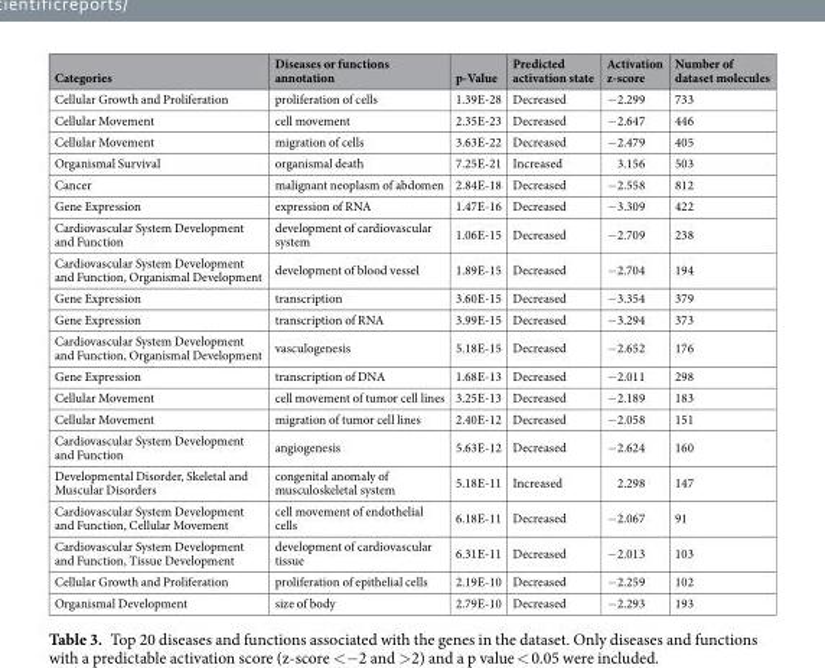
<table><thead><tr><td>Categories</td><td>Diseases or functions annotation</td><td>p-Value</td><td>Predicted activation state</td><td>Activation z-score</td><td>Number of dataset molecules</td></tr></thead><tbody><tr><td>Cellular Growth and Proliferation</td><td>proliferation of cells</td><td>1.39E-28</td><td>Decreased</td><td>−2.299</td><td>733</td></tr><tr><td>Cellular Movement</td><td>cell movement</td><td>2.35E-23</td><td>Decreased</td><td>−2.647</td><td>446</td></tr><tr><td>Cellular Movement</td><td>migration of cells</td><td>3.63E-22</td><td>Decreased</td><td>−2.479</td><td>405</td></tr><tr><td>Organismal Survival</td><td>organismal death</td><td>7.25E-21</td><td>Increased</td><td>3.156</td><td>503</td></tr><tr><td>Cancer</td><td>malignant neoplasm of abdomen</td><td>2.84E-18</td><td>Decreased</td><td>−2.558</td><td>812</td></tr><tr><td>Gene Expression</td><td>expression of RNA</td><td>1.47E-16</td><td>Decreased</td><td>−3.309</td><td>422</td></tr><tr><td>Cardiovascular System Development and Function</td><td>development of cardiovascular system</td><td>1.06E-15</td><td>Decreased</td><td>−2.709</td><td>238</td></tr><tr><td>Cardiovascular System Development and Function, Organismal Development</td><td>development of blood vessel</td><td>1.89E-15</td><td>Decreased</td><td>−2.704</td><td>194</td></tr><tr><td>Gene Expression</td><td>transcription</td><td>3.60E-15</td><td>Decreased</td><td>−3.354</td><td>379</td></tr><tr><td>Gene Expression</td><td>transcription of RNA</td><td>3.99E-15</td><td>Decreased</td><td>−3.294</td><td>373</td></tr><tr><td>Cardiovascular System Development and Function, Organismal Development</td><td>vasculogenesis</td><td>5.18E-15</td><td>Decreased</td><td>−2.652</td><td>176</td></tr><tr><td>Gene Expression</td><td>transcription of DNA</td><td>1.68E-13</td><td>Decreased</td><td>−2.011</td><td>298</td></tr><tr><td>Cellular Movement</td><td>cell movement of tumor cell lines</td><td>3.25E-13</td><td>Decreased</td><td>−2.189</td><td>183</td></tr><tr><td>Cellular Movement</td><td>migration of tumor cell lines</td><td>2.40E-12</td><td>Decreased</td><td>−2.058</td><td>151</td></tr><tr><td>Cardiovascular System Development and Function</td><td>angiogenesis</td><td>5.63E-12</td><td>Decreased</td><td>−2.624</td><td>160</td></tr><tr><td>Developmental Disorder, Skeletal and Muscular Disorders</td><td>congenital anomaly of musculoskeletal system</td><td>5.18E-11</td><td>Increased</td><td>2.298</td><td>147</td></tr><tr><td>Cardiovascular System Development and Function, Cellular Movement</td><td>cell movement of endothelial cells</td><td>6.18E-11</td><td>Decreased</td><td>−2.067</td><td>91</td></tr><tr><td>Cardiovascular System Development and Function, Tissue Development</td><td>development of cardiovascular tissue</td><td>6.31E-11</td><td>Decreased</td><td>−2.013</td><td>103</td></tr><tr><td>Cellular Growth and Proliferation</td><td>proliferation of epithelial cells</td><td>2.19E-10</td><td>Decreased</td><td>−2.259</td><td>102</td></tr><tr><td>Organismal Development</td><td>size of body</td><td>2.79E-10</td><td>Decreased</td><td>−2.293</td><td>193</td></tr></tbody></table>